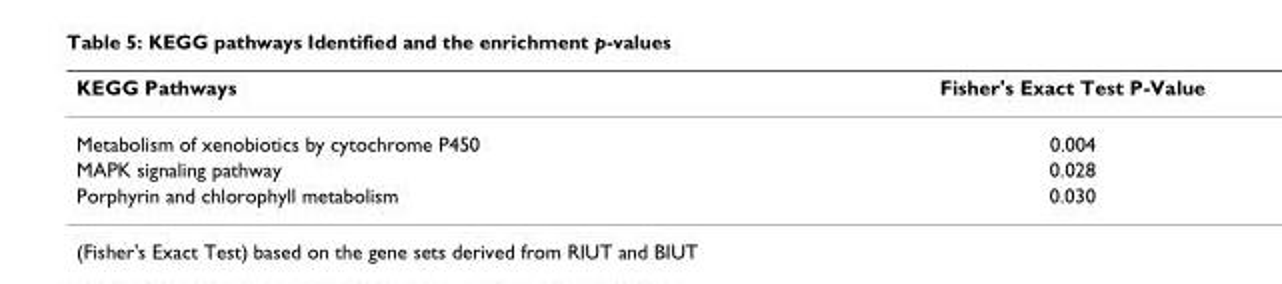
<table><thead><tr><td>KEGG Pathways</td><td>Fisher&#x27;s Exact Test P-Value</td></tr></thead><tbody><tr><td>Metabolism of xenobiotics by cytochrome P450</td><td>0.004</td></tr><tr><td>MAPK signaling pathway</td><td>0.028</td></tr><tr><td>Porphyrin and chlorophyll metabolism</td><td>0.030</td></tr></tbody></table>